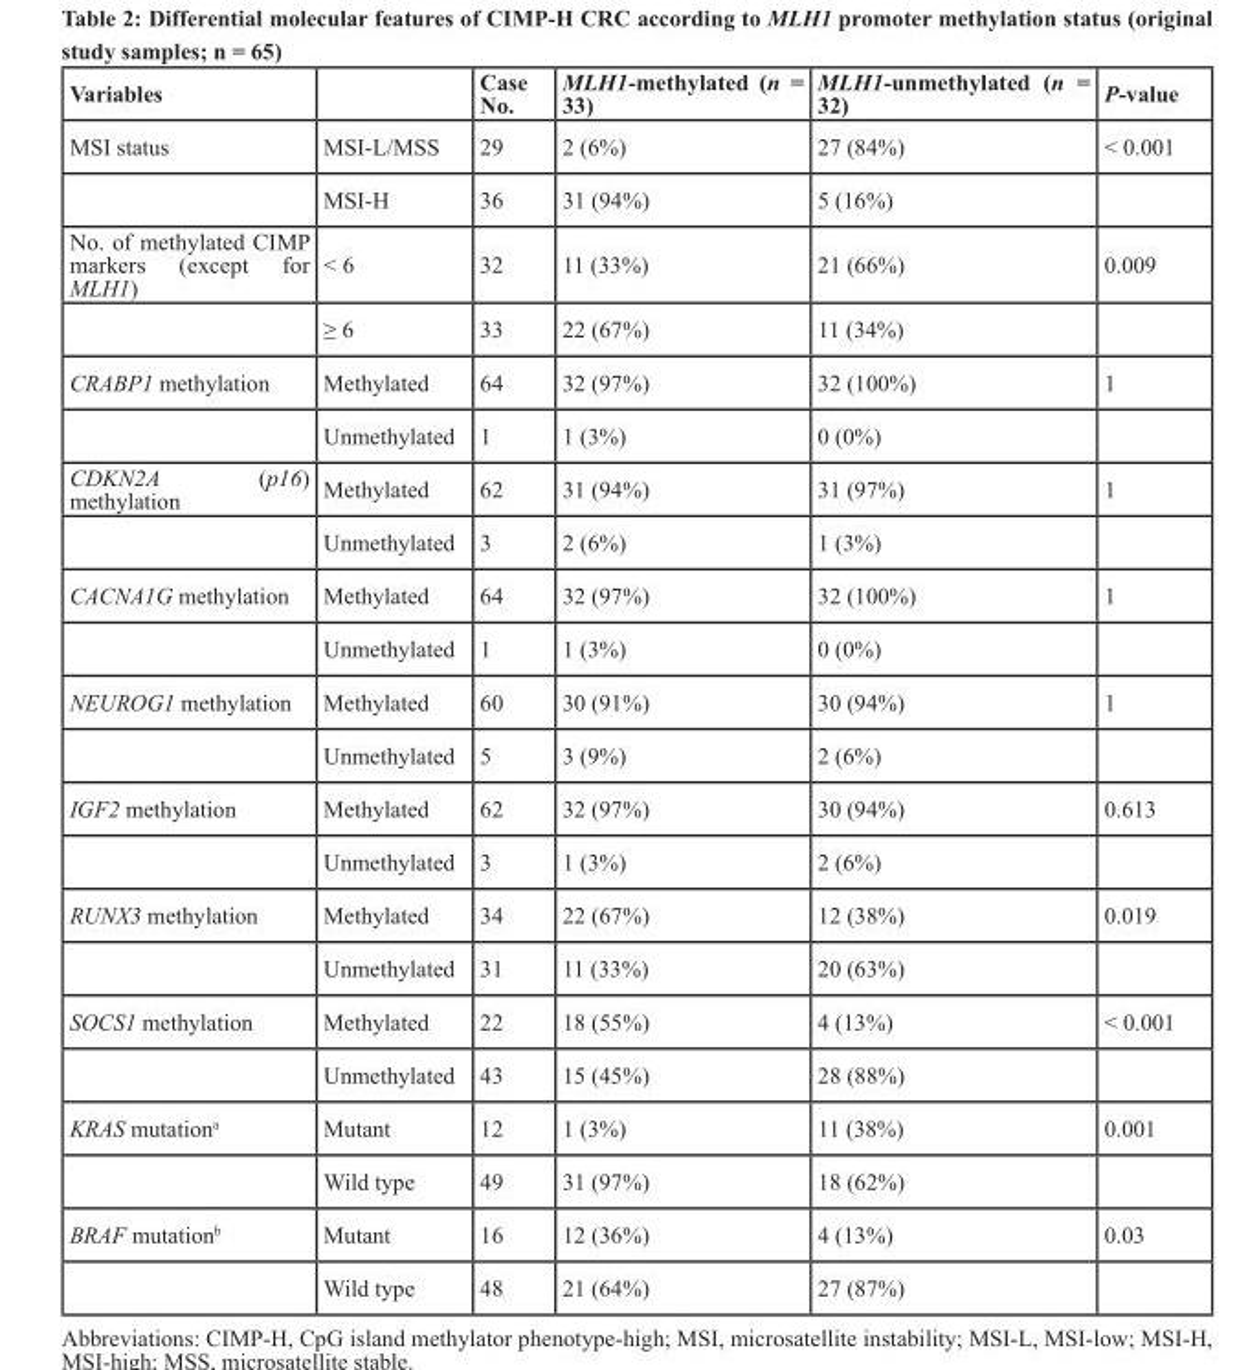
<table><thead><tr><td>Variables</td><td></td><td>Case No.</td><td>MLH1-methylated (n = 33)</td><td>MLH1-unmethylated (n = 32)</td><td>P-value</td></tr></thead><tbody><tr><td rowspan="2">MSI status</td><td>MSI-L/MSS</td><td>29</td><td>2 (6%)</td><td>27 (84%)</td><td>&lt; 0.001</td></tr><tr><td>MSI-H</td><td>36</td><td>31 (94%)</td><td>5 (16%)</td><td></td></tr><tr><td rowspan="2">No. of methylated CIMP markers (except for MLH1)</td><td>&lt; 6</td><td>32</td><td>11 (33%)</td><td>21 (66%)</td><td>0.009</td></tr><tr><td>≥ 6</td><td>33</td><td>22 (67%)</td><td>11 (34%)</td><td></td></tr><tr><td rowspan="2">CRABP1 methylation</td><td>Methylated</td><td>64</td><td>32 (97%)</td><td>32 (100%)</td><td>1</td></tr><tr><td>Unmethylated</td><td>1</td><td>1 (3%)</td><td>0 (0%)</td><td></td></tr><tr><td rowspan="2">CDKN2A (p16) methylation</td><td>Methylated</td><td>62</td><td>31 (94%)</td><td>31 (97%)</td><td>1</td></tr><tr><td>Unmethylated</td><td>3</td><td>2 (6%)</td><td>1 (3%)</td><td></td></tr><tr><td rowspan="2">CACNA1G methylation</td><td>Methylated</td><td>64</td><td>32 (97%)</td><td>32 (100%)</td><td>1</td></tr><tr><td>Unmethylated</td><td>1</td><td>1 (3%)</td><td>0 (0%)</td><td></td></tr><tr><td rowspan="2">NEUROG1 methylation</td><td>Methylated</td><td>60</td><td>30 (91%)</td><td>30 (94%)</td><td>1</td></tr><tr><td>Unmethylated</td><td>5</td><td>3 (9%)</td><td>2 (6%)</td><td></td></tr><tr><td rowspan="2">IGF2 methylation</td><td>Methylated</td><td>62</td><td>32 (97%)</td><td>30 (94%)</td><td>0.613</td></tr><tr><td>Unmethylated</td><td>3</td><td>1 (3%)</td><td>2 (6%)</td><td></td></tr><tr><td rowspan="2">RUNX3 methylation</td><td>Methylated</td><td>34</td><td>22 (67%)</td><td>12 (38%)</td><td>0.019</td></tr><tr><td>Unmethylated</td><td>31</td><td>11 (33%)</td><td>20 (63%)</td><td></td></tr><tr><td rowspan="2">SOCS1 methylation</td><td>Methylated</td><td>22</td><td>18 (55%)</td><td>4 (13%)</td><td>&lt; 0.001</td></tr><tr><td>Unmethylated</td><td>43</td><td>15 (45%)</td><td>28 (88%)</td><td></td></tr><tr><td rowspan="2">KRAS mutation<sup>a</sup></td><td>Mutant</td><td>12</td><td>1 (3%)</td><td>11 (38%)</td><td>0.001</td></tr><tr><td>Wild type</td><td>49</td><td>31 (97%)</td><td>18 (62%)</td><td></td></tr><tr><td rowspan="2">BRAF mutation<sup>b</sup></td><td>Mutant</td><td>16</td><td>12 (36%)</td><td>4 (13%)</td><td>0.03</td></tr><tr><td>Wild type</td><td>48</td><td>21 (64%)</td><td>27 (87%)</td><td></td></tr></tbody></table>